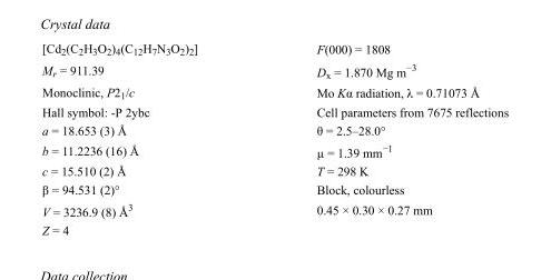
<table><tbody><tr><td>[Cd<sub>2</sub>(C<sub>2</sub>H<sub>3</sub>O<sub>2</sub>)<sub>4</sub>(C<sub>12</sub>H<sub>7</sub>N<sub>3</sub>O<sub>2</sub>)<sub>2</sub>]</td><td>F(000) = 1808</td></tr><tr><td>M<sub>r</sub> = 911.39</td><td>D<sub>x</sub> = 1.870 Mg m<sup>−3</sup></td></tr><tr><td>Monoclinic, P2<sub>1</sub>/c</td><td>Mo Kα radiation, λ = 0.71073 Å</td></tr><tr><td>Hall symbol: -P 2ybc</td><td>Cell parameters from 7675 reflections</td></tr><tr><td>a = 18.653 (3) Å</td><td>θ = 2.5–28.0°</td></tr><tr><td>b = 11.2236 (16) Å</td><td>µ = 1.39 mm<sup>−1</sup></td></tr><tr><td>c = 15.510 (2) Å</td><td>T = 298 K</td></tr><tr><td>β = 94.531 (2)°</td><td>Block, colourless</td></tr><tr><td>V = 3236.9 (8) Å<sup>3</sup></td><td>0.45 × 0.30 × 0.27 mm</td></tr><tr><td>Z = 4</td><td></td></tr></tbody></table>